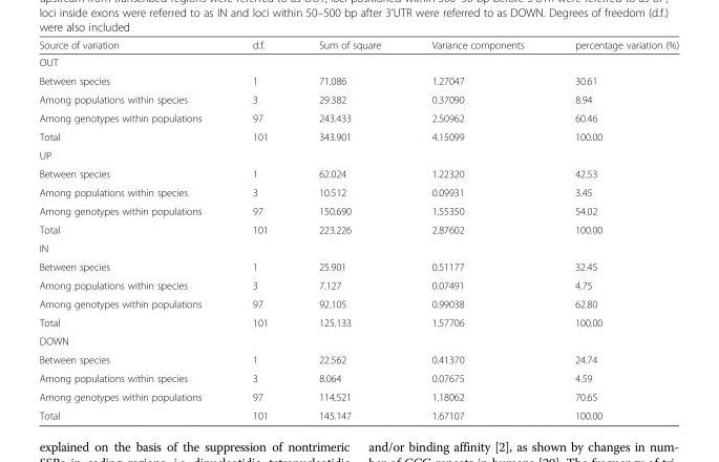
<table><thead><tr><td>Source of variation</td><td>d.f.</td><td>Sum of square</td><td>Variance components</td><td>percentage variation (%)</td></tr></thead><tbody><tr><td colspan="5">OUT</td></tr><tr><td>Between species</td><td>1</td><td>71.086</td><td>1.27047</td><td>30.61</td></tr><tr><td>Among populations within species</td><td>3</td><td>29.382</td><td>0.37090</td><td>8.94</td></tr><tr><td>Among genotypes within populations</td><td>97</td><td>243.433</td><td>2.50962</td><td>60.46</td></tr><tr><td>Total</td><td>101</td><td>343.901</td><td>4.15099</td><td>100.00</td></tr><tr><td colspan="5">UP</td></tr><tr><td>Between species</td><td>1</td><td>62.024</td><td>1.22320</td><td>42.53</td></tr><tr><td>Among populations within species</td><td>3</td><td>10.512</td><td>0.09931</td><td>3.45</td></tr><tr><td>Among genotypes within populations</td><td>97</td><td>150.690</td><td>1.55350</td><td>54.02</td></tr><tr><td>Total</td><td>101</td><td>223.226</td><td>2.87602</td><td>100.00</td></tr><tr><td colspan="5">IN</td></tr><tr><td>Between species</td><td>1</td><td>25.901</td><td>0.51177</td><td>32.45</td></tr><tr><td>Among populations within species</td><td>3</td><td>7.127</td><td>0.07491</td><td>4.75</td></tr><tr><td>Among genotypes within populations</td><td>97</td><td>92.105</td><td>0.99038</td><td>62.80</td></tr><tr><td>Total</td><td>101</td><td>125.133</td><td>1.57706</td><td>100.00</td></tr><tr><td colspan="5">DOWN</td></tr><tr><td>Between species</td><td>1</td><td>22.562</td><td>0.41370</td><td>24.74</td></tr><tr><td>Among populations within species</td><td>3</td><td>8.064</td><td>0.07675</td><td>4.59</td></tr><tr><td>Among genotypes within populations</td><td>97</td><td>114.521</td><td>1.18062</td><td>70.65</td></tr><tr><td>Total</td><td>101</td><td>145.147</td><td>1.67107</td><td>100.00</td></tr></tbody></table>